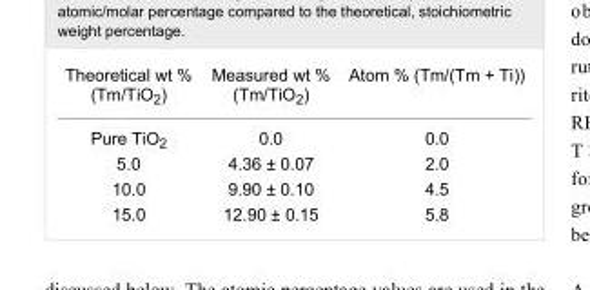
<table><tbody><tr><td>Theoretical wt % (Tm/TiO<sub>2</sub>)</td><td>Measured wt % (Tm/TiO<sub>2</sub>)</td><td>Atom % (Tm/(Tm + Ti))</td></tr><tr><td>Pure TiO<sub>2</sub></td><td>0.0</td><td>0.0</td></tr><tr><td>5.0</td><td>4.36 ± 0.07</td><td>2.0</td></tr><tr><td>10.0</td><td>9.90 ± 0.10</td><td>4.5</td></tr><tr><td>15.0</td><td>12.90 ± 0.15</td><td>5.8</td></tr></tbody></table>